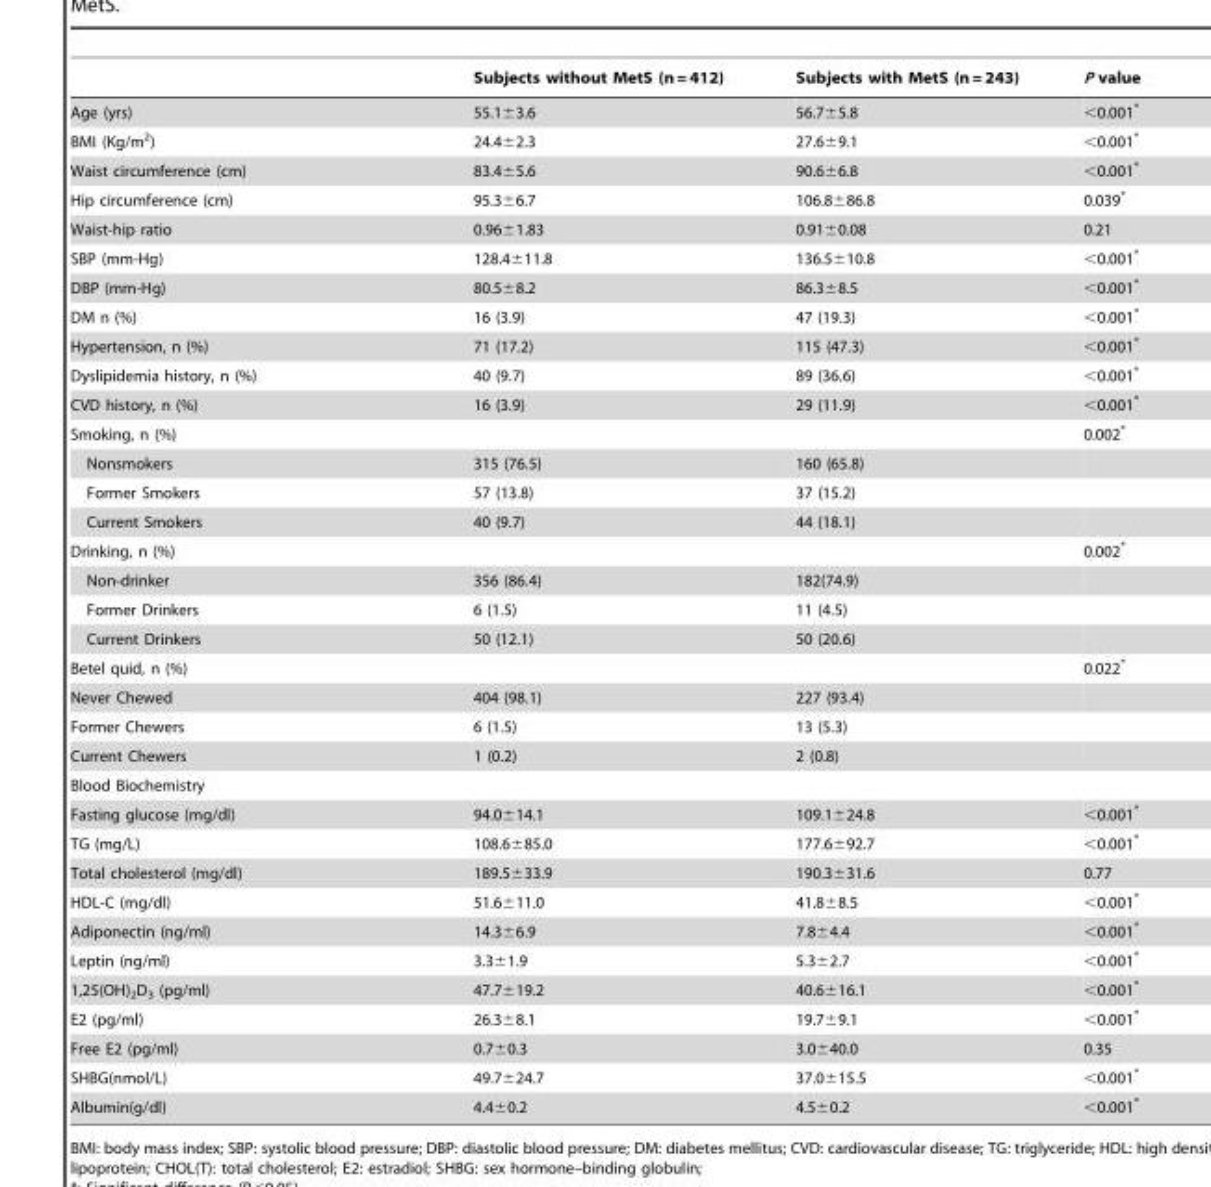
<table><thead><tr><td></td><td>Subjects without MetS (n = 412)</td><td>Subjects with MetS (n = 243)</td><td>P value</td></tr></thead><tbody><tr><td>Age (yrs)</td><td>55.1±3.6</td><td>56.7±5.8</td><td>&lt;0.001*</td></tr><tr><td>BMI (Kg/m<sup>2</sup>)</td><td>24.4±2.3</td><td>27.6±9.1</td><td>&lt;0.001*</td></tr><tr><td>Waist circumference (cm)</td><td>83.4±5.6</td><td>90.6±6.8</td><td>&lt;0.001*</td></tr><tr><td>Hip circumference (cm)</td><td>95.3±6.7</td><td>106.8±86.8</td><td>0.039*</td></tr><tr><td>Waist-hip ratio</td><td>0.96±1.83</td><td>0.91±0.08</td><td>0.21</td></tr><tr><td>SBP (mm-Hg)</td><td>128.4±11.8</td><td>136.5±10.8</td><td>&lt;0.001*</td></tr><tr><td>DBP (mm-Hg)</td><td>80.5±8.2</td><td>86.3±8.5</td><td>&lt;0.001*</td></tr><tr><td>DM n (%)</td><td>16 (3.9)</td><td>47 (19.3)</td><td>&lt;0.001*</td></tr><tr><td>Hypertension, n (%)</td><td>71 (17.2)</td><td>115 (47.3)</td><td>&lt;0.001*</td></tr><tr><td>Dyslipidemia history, n (%)</td><td>40 (9.7)</td><td>89 (36.6)</td><td>&lt;0.001*</td></tr><tr><td>CVD history, n (%)</td><td>16 (3.9)</td><td>29 (11.9)</td><td>&lt;0.001*</td></tr><tr><td>Smoking, n (%)</td><td></td><td></td><td>0.002*</td></tr><tr><td>Nonsmokers</td><td>315 (76.5)</td><td>160 (65.8)</td><td></td></tr><tr><td>Former Smokers</td><td>57 (13.8)</td><td>37 (15.2)</td><td></td></tr><tr><td>Current Smokers</td><td>40 (9.7)</td><td>44 (18.1)</td><td></td></tr><tr><td>Drinking, n (%)</td><td></td><td></td><td>0.002*</td></tr><tr><td>Non-drinker</td><td>356 (86.4)</td><td>182(74.9)</td><td></td></tr><tr><td>Former Drinkers</td><td>6 (1.5)</td><td>11 (4.5)</td><td></td></tr><tr><td>Current Drinkers</td><td>50 (12.1)</td><td>50 (20.6)</td><td></td></tr><tr><td>Betel quid, n (%)</td><td></td><td></td><td>0.022*</td></tr><tr><td>Never Chewed</td><td>404 (98.1)</td><td>227 (93.4)</td><td></td></tr><tr><td>Former Chewers</td><td>6 (1.5)</td><td>13 (5.3)</td><td></td></tr><tr><td>Current Chewers</td><td>1 (0.2)</td><td>2 (0.8)</td><td></td></tr><tr><td colspan="4">Blood Biochemistry</td></tr><tr><td>Fasting glucose (mg/dl)</td><td>94.0±14.1</td><td>109.1±24.8</td><td>&lt;0.001*</td></tr><tr><td>TG (mg/L)</td><td>108.6±85.0</td><td>177.6±92.7</td><td>&lt;0.001*</td></tr><tr><td>Total cholesterol (mg/dl)</td><td>189.5±33.9</td><td>190.3±31.6</td><td>0.77</td></tr><tr><td>HDL-C (mg/dl)</td><td>51.6±11.0</td><td>41.8±8.5</td><td>&lt;0.001*</td></tr><tr><td>Adiponectin (ng/ml)</td><td>14.3±6.9</td><td>7.8±4.4</td><td>&lt;0.001*</td></tr><tr><td>Leptin (ng/ml)</td><td>3.3±1.9</td><td>5.3±2.7</td><td>&lt;0.001*</td></tr><tr><td>1,25(OH)<sub>2</sub>D<sub>3</sub> (pg/ml)</td><td>47.7±19.2</td><td>40.6±16.1</td><td>&lt;0.001*</td></tr><tr><td>E2 (pg/ml)</td><td>26.3±8.1</td><td>19.7±9.1</td><td>&lt;0.001*</td></tr><tr><td>Free E2 (pg/ml)</td><td>0.7±0.3</td><td>3.0±40.0</td><td>0.35</td></tr><tr><td>SHBG(nmol/L)</td><td>49.7±24.7</td><td>37.0±15.5</td><td>&lt;0.001*</td></tr><tr><td>Albumin(g/dl)</td><td>4.4±0.2</td><td>4.5±0.2</td><td>&lt;0.001*</td></tr></tbody></table>